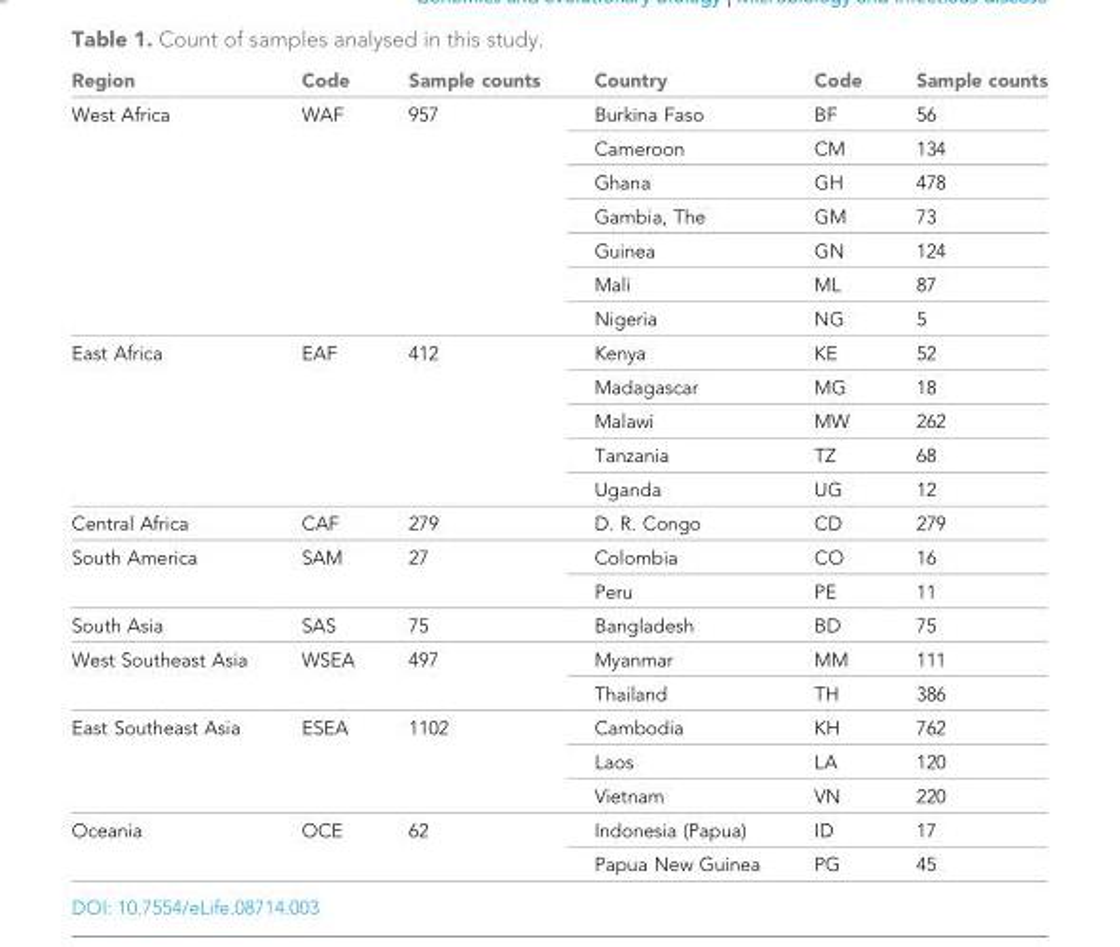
<table><thead><tr><td>Region</td><td>Code</td><td>Sample counts</td><td>Country</td><td>Code</td><td>Sample counts</td></tr></thead><tbody><tr><td rowspan="7">West Africa</td><td rowspan="7">WAF</td><td rowspan="7">957</td><td>Burkina Faso</td><td>BF</td><td>56</td></tr><tr><td>Cameroon</td><td>CM</td><td>134</td></tr><tr><td>Ghana</td><td>GH</td><td>478</td></tr><tr><td>Gambia, The</td><td>GM</td><td>73</td></tr><tr><td>Guinea</td><td>GN</td><td>124</td></tr><tr><td>Mali</td><td>ML</td><td>87</td></tr><tr><td>Nigeria</td><td>NG</td><td>5</td></tr><tr><td rowspan="5">East Africa</td><td rowspan="5">EAF</td><td rowspan="5">412</td><td>Kenya</td><td>KE</td><td>52</td></tr><tr><td>Madagascar</td><td>MG</td><td>18</td></tr><tr><td>Malawi</td><td>MW</td><td>262</td></tr><tr><td>Tanzania</td><td>TZ</td><td>68</td></tr><tr><td>Uganda</td><td>UG</td><td>12</td></tr><tr><td>Central Africa</td><td>CAF</td><td>279</td><td>D. R. Congo</td><td>CD</td><td>279</td></tr><tr><td rowspan="2">South America</td><td rowspan="2">SAM</td><td rowspan="2">27</td><td>Colombia</td><td>CO</td><td>16</td></tr><tr><td>Peru</td><td>PE</td><td>11</td></tr><tr><td>South Asia</td><td>SAS</td><td>75</td><td>Bangladesh</td><td>BD</td><td>75</td></tr><tr><td rowspan="2">West Southeast Asia</td><td rowspan="2">WSEA</td><td rowspan="2">497</td><td>Myanmar</td><td>MM</td><td>111</td></tr><tr><td>Thailand</td><td>TH</td><td>386</td></tr><tr><td rowspan="3">East Southeast Asia</td><td rowspan="3">ESEA</td><td rowspan="3">1102</td><td>Cambodia</td><td>KH</td><td>762</td></tr><tr><td>Laos</td><td>LA</td><td>120</td></tr><tr><td>Vietnam</td><td>VN</td><td>220</td></tr><tr><td rowspan="2">Oceania</td><td rowspan="2">OCE</td><td rowspan="2">62</td><td>Indonesia (Papua)</td><td>ID</td><td>17</td></tr><tr><td>Papua New Guinea</td><td>PG</td><td>45</td></tr></tbody></table>